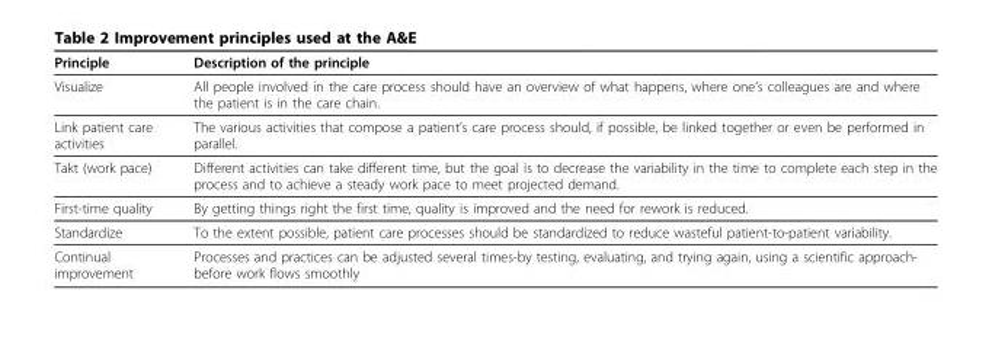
<table><thead><tr><td>Principle</td><td>Description of the principle</td></tr></thead><tbody><tr><td>Visualize</td><td>All people involved in the care process should have an overview of what happens, where one’s colleagues are and where the patient is in the care chain.</td></tr><tr><td>Link patient care activities</td><td>The various activities that compose a patient’s care process should, if possible, be linked together or even be performed in parallel.</td></tr><tr><td>Takt (work pace)</td><td>Different activities can take different time, but the goal is to decrease the variability in the time to complete each step in the process and to achieve a steady work pace to meet projected demand.</td></tr><tr><td>First-time quality</td><td>By getting things right the first time, quality is improved and the need for rework is reduced.</td></tr><tr><td>Standardize</td><td>To the extent possible, patient care processes should be standardized to reduce wasteful patient-to-patient variability.</td></tr><tr><td>Continual improvement</td><td>Processes and practices can be adjusted several times-by testing, evaluating, and trying again, using a scientific approach- before work flows smoothly</td></tr></tbody></table>